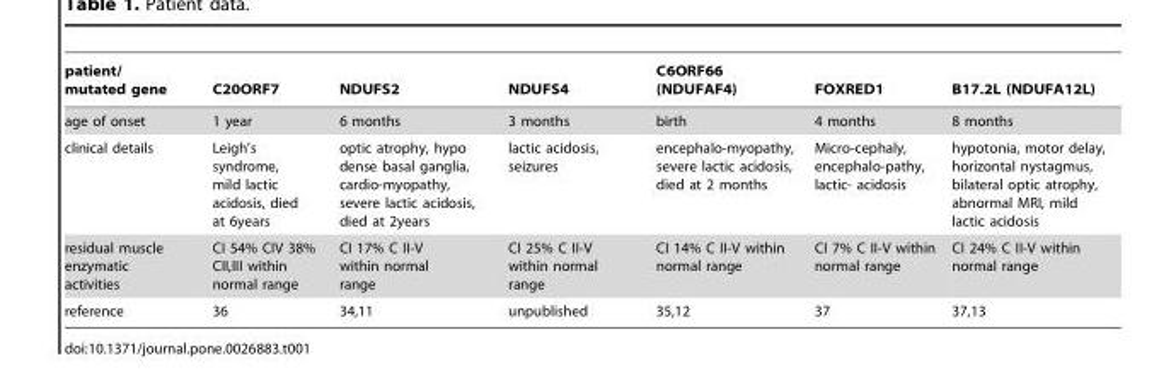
<table><thead><tr><td>patient/ mutated gene</td><td>C20ORF7</td><td>NDUFS2</td><td>NDUFS4</td><td>C6ORF66 (NDUFAF4)</td><td>FOXRED1</td><td>B17.2L (NDUFA12L)</td></tr></thead><tbody><tr><td>age of onset</td><td>1 year</td><td>6 months</td><td>3 months</td><td>birth</td><td>4 months</td><td>8 months</td></tr><tr><td>clinical details</td><td>Leigh’s syndrome, mild lactic acidosis, died at 6years</td><td>optic atrophy, hypo dense basal ganglia, cardio-myopathy, severe lactic acidosis, died at 2years</td><td>lactic acidosis, seizures</td><td>encephalo-myopathy, severe lactic acidosis, died at 2 months</td><td>Micro-cephaly, encephalo-pathy, lactic- acidosis</td><td>hypotonia, motor delay, horizontal nystagmus, bilateral optic atrophy, abnormal MRI, mild lactic acidosis</td></tr><tr><td>residual muscle enzymatic activities</td><td>CI 54% CIV 38% CII,III within normal range</td><td>CI 17% C II-V within normal range</td><td>CI 25% C II-V within normal range</td><td>CI 14% C II-V within normal range</td><td>CI 7% C II-V within normal range</td><td>CI 24% C II-V within normal range</td></tr><tr><td>reference</td><td>36</td><td>34,11</td><td>unpublished</td><td>35,12</td><td>37</td><td>37,13</td></tr></tbody></table>